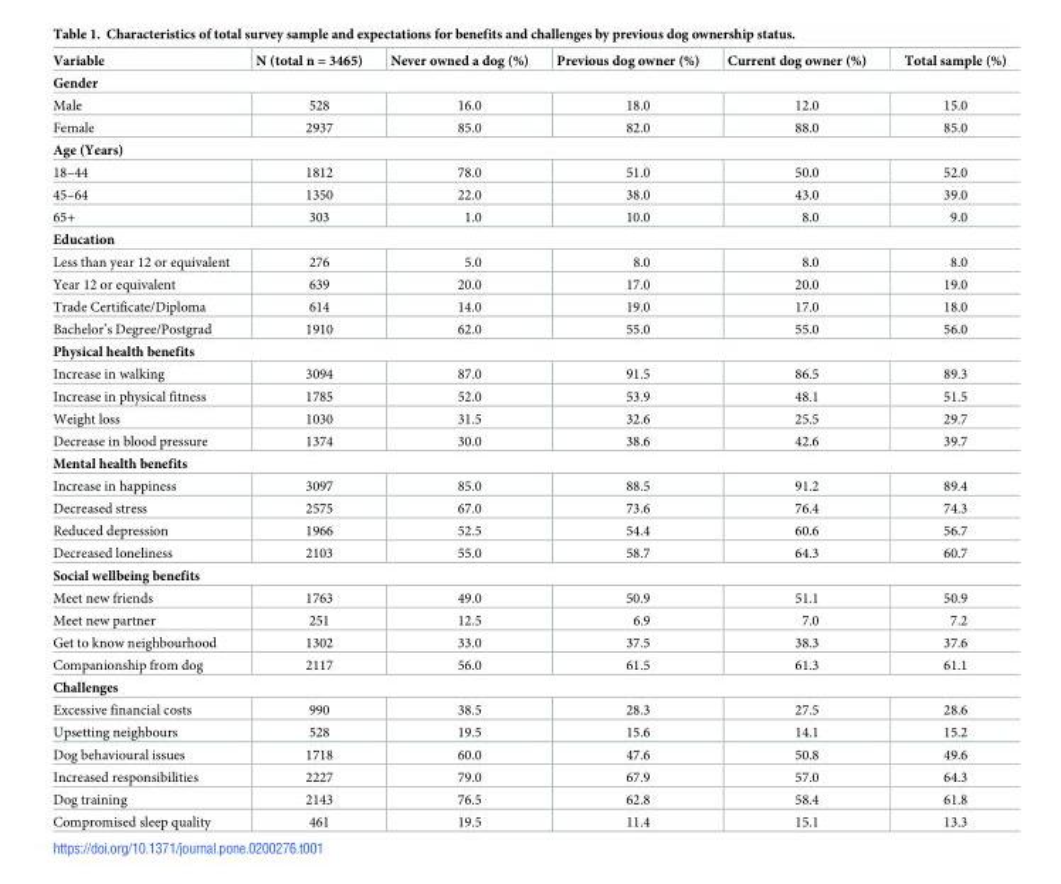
<table><thead><tr><td>Variable</td><td>N (total n = 3465)</td><td>Never owned a dog (%)</td><td>Previous dog owner (%)</td><td>Current dog owner (%)</td><td>Total sample (%)</td></tr></thead><tbody><tr><td colspan="6">Gender</td></tr><tr><td>Male</td><td>528</td><td>16.0</td><td>18.0</td><td>12.0</td><td>15.0</td></tr><tr><td>Female</td><td>2937</td><td>85.0</td><td>82.0</td><td>88.0</td><td>85.0</td></tr><tr><td colspan="6">Age (Years)</td></tr><tr><td>18–44</td><td>1812</td><td>78.0</td><td>51.0</td><td>50.0</td><td>52.0</td></tr><tr><td>45–64</td><td>1350</td><td>22.0</td><td>38.0</td><td>43.0</td><td>39.0</td></tr><tr><td>65+</td><td>303</td><td>1.0</td><td>10.0</td><td>8.0</td><td>9.0</td></tr><tr><td colspan="6">Education</td></tr><tr><td>Less than year 12 or equivalent</td><td>276</td><td>5.0</td><td>8.0</td><td>8.0</td><td>8.0</td></tr><tr><td>Year 12 or equivalent</td><td>639</td><td>20.0</td><td>17.0</td><td>20.0</td><td>19.0</td></tr><tr><td>Trade Certificate/Diploma</td><td>614</td><td>14.0</td><td>19.0</td><td>17.0</td><td>18.0</td></tr><tr><td>Bachelor’s Degree/Postgrad</td><td>1910</td><td>62.0</td><td>55.0</td><td>55.0</td><td>56.0</td></tr><tr><td colspan="6">Physical health benefits</td></tr><tr><td>Increase in walking</td><td>3094</td><td>87.0</td><td>91.5</td><td>86.5</td><td>89.3</td></tr><tr><td>Increase in physical fitness</td><td>1785</td><td>52.0</td><td>53.9</td><td>48.1</td><td>51.5</td></tr><tr><td>Weight loss</td><td>1030</td><td>31.5</td><td>32.6</td><td>25.5</td><td>29.7</td></tr><tr><td>Decrease in blood pressure</td><td>1374</td><td>30.0</td><td>38.6</td><td>42.6</td><td>39.7</td></tr><tr><td colspan="6">Mental health benefits</td></tr><tr><td>Increase in happiness</td><td>3097</td><td>85.0</td><td>88.5</td><td>91.2</td><td>89.4</td></tr><tr><td>Decreased stress</td><td>2575</td><td>67.0</td><td>73.6</td><td>76.4</td><td>74.3</td></tr><tr><td>Reduced depression</td><td>1966</td><td>52.5</td><td>54.4</td><td>60.6</td><td>56.7</td></tr><tr><td>Decreased loneliness</td><td>2103</td><td>55.0</td><td>58.7</td><td>64.3</td><td>60.7</td></tr><tr><td colspan="6">Social wellbeing benefits</td></tr><tr><td>Meet new friends</td><td>1763</td><td>49.0</td><td>50.9</td><td>51.1</td><td>50.9</td></tr><tr><td>Meet new partner</td><td>251</td><td>12.5</td><td>6.9</td><td>7.0</td><td>7.2</td></tr><tr><td>Get to know neighbourhood</td><td>1302</td><td>33.0</td><td>37.5</td><td>38.3</td><td>37.6</td></tr><tr><td>Companionship from dog</td><td>2117</td><td>56.0</td><td>61.5</td><td>61.3</td><td>61.1</td></tr><tr><td colspan="6">Challenges</td></tr><tr><td>Excessive financial costs</td><td>990</td><td>38.5</td><td>28.3</td><td>27.5</td><td>28.6</td></tr><tr><td>Upsetting neighbours</td><td>528</td><td>19.5</td><td>15.6</td><td>14.1</td><td>15.2</td></tr><tr><td>Dog behavioural issues</td><td>1718</td><td>60.0</td><td>47.6</td><td>50.8</td><td>49.6</td></tr><tr><td>Increased responsibilities</td><td>2227</td><td>79.0</td><td>67.9</td><td>57.0</td><td>64.3</td></tr><tr><td>Dog training</td><td>2143</td><td>76.5</td><td>62.8</td><td>58.4</td><td>61.8</td></tr><tr><td>Compromised sleep quality</td><td>461</td><td>19.5</td><td>11.4</td><td>15.1</td><td>13.3</td></tr></tbody></table>